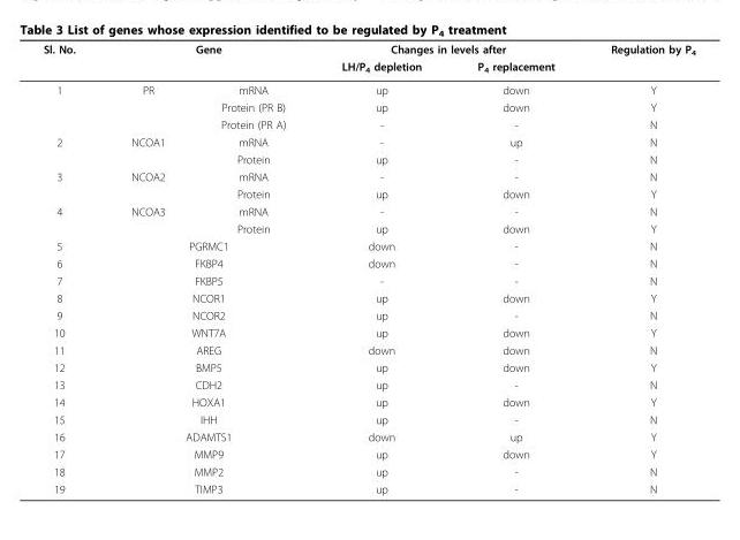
<table><thead><tr><td rowspan="2">Sl. No.</td><td colspan="2">Gene</td><td colspan="2">Changes in levels after</td><td rowspan="2">Regulation by P<sub>4</sub></td></tr><tr><td></td><td></td><td>LH/P<sub>4</sub> depletion</td><td>P<sub>4</sub> replacement</td></tr></thead><tbody><tr><td rowspan="3">1</td><td>PR</td><td>mRNA</td><td>up</td><td>down</td><td>Y</td></tr><tr><td></td><td>Protein (PR B)</td><td>up</td><td>down</td><td>Y</td></tr><tr><td></td><td>Protein (PR A)</td><td>-</td><td>-</td><td>N</td></tr><tr><td rowspan="2">2</td><td>NCOA1</td><td>mRNA</td><td>-</td><td>up</td><td>N</td></tr><tr><td></td><td>Protein</td><td>up</td><td>-</td><td>N</td></tr><tr><td rowspan="2">3</td><td>NCOA2</td><td>mRNA</td><td>-</td><td>-</td><td>N</td></tr><tr><td></td><td>Protein</td><td>up</td><td>down</td><td>Y</td></tr><tr><td rowspan="2">4</td><td>NCOA3</td><td>mRNA</td><td>-</td><td>-</td><td>N</td></tr><tr><td></td><td>Protein</td><td>up</td><td>down</td><td>Y</td></tr><tr><td>5</td><td colspan="2">PGRMC1</td><td>down</td><td>-</td><td>N</td></tr><tr><td>6</td><td colspan="2">FKBP4</td><td>down</td><td>-</td><td>N</td></tr><tr><td>7</td><td colspan="2">FKBP5</td><td>-</td><td>-</td><td>N</td></tr><tr><td>8</td><td colspan="2">NCOR1</td><td>up</td><td>down</td><td>Y</td></tr><tr><td>9</td><td colspan="2">NCOR2</td><td>up</td><td>-</td><td>N</td></tr><tr><td>10</td><td colspan="2">WNT7A</td><td>up</td><td>down</td><td>Y</td></tr><tr><td>11</td><td colspan="2">AREG</td><td>down</td><td>down</td><td>N</td></tr><tr><td>12</td><td colspan="2">BMP5</td><td>up</td><td>down</td><td>Y</td></tr><tr><td>13</td><td colspan="2">CDH2</td><td>up</td><td>-</td><td>N</td></tr><tr><td>14</td><td colspan="2">HOXA1</td><td>up</td><td>down</td><td>Y</td></tr><tr><td>15</td><td colspan="2">IHH</td><td>up</td><td>-</td><td>N</td></tr><tr><td>16</td><td colspan="2">ADAMTS1</td><td>down</td><td>up</td><td>Y</td></tr><tr><td>17</td><td colspan="2">MMP9</td><td>up</td><td>down</td><td>Y</td></tr><tr><td>18</td><td colspan="2">MMP2</td><td>up</td><td>-</td><td>N</td></tr><tr><td>19</td><td colspan="2">TIMP3</td><td>up</td><td>-</td><td>N</td></tr></tbody></table>